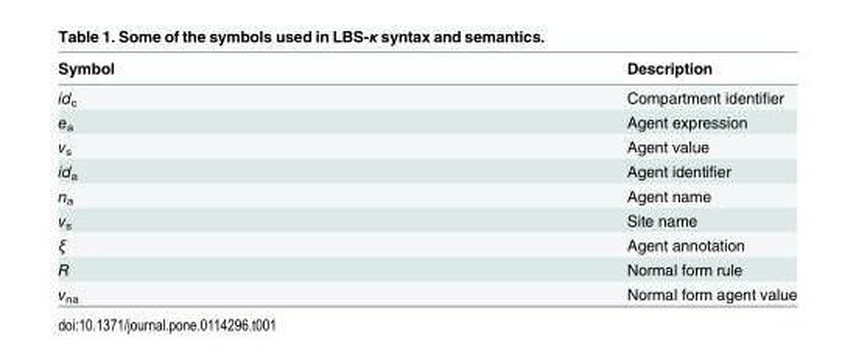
<table><thead><tr><td>Symbol</td><td>Description</td></tr></thead><tbody><tr><td>id<sub>c</sub></td><td>Compartment identifier</td></tr><tr><td>e<sub>a</sub></td><td>Agent expression</td></tr><tr><td>v<sub>s</sub></td><td>Agent value</td></tr><tr><td>id<sub>a</sub></td><td>Agent identifier</td></tr><tr><td>n<sub>a</sub></td><td>Agent name</td></tr><tr><td>v<sub>s</sub></td><td>Site name</td></tr><tr><td>ξ</td><td>Agent annotation</td></tr><tr><td>R</td><td>Normal form rule</td></tr><tr><td>v<sub>na</sub></td><td>Normal form agent value</td></tr></tbody></table>